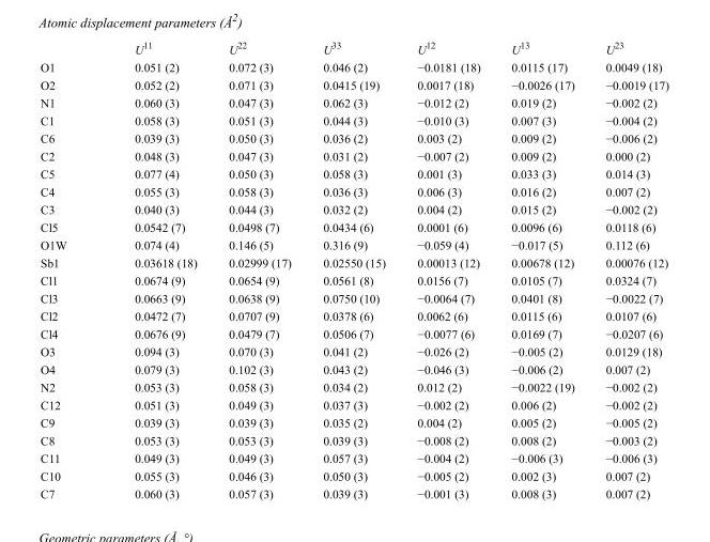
<table><thead><tr><td></td><td>U<sup>11</sup></td><td>U<sup>22</sup></td><td>U<sup>33</sup></td><td>U<sup>12</sup></td><td>U<sup>13</sup></td><td>U<sup>23</sup></td></tr></thead><tbody><tr><td>O1</td><td>0.051 (2)</td><td>0.072 (3)</td><td>0.046 (2)</td><td>−0.0181 (18)</td><td>0.0115 (17)</td><td>0.0049 (18)</td></tr><tr><td>O2</td><td>0.052 (2)</td><td>0.071 (3)</td><td>0.0415 (19)</td><td>0.0017 (18)</td><td>−0.0026 (17)</td><td>−0.0019 (17)</td></tr><tr><td>N1</td><td>0.060 (3)</td><td>0.047 (3)</td><td>0.062 (3)</td><td>−0.012 (2)</td><td>0.019 (2)</td><td>−0.002 (2)</td></tr><tr><td>C1</td><td>0.058 (3)</td><td>0.051 (3)</td><td>0.044 (3)</td><td>−0.010 (3)</td><td>0.007 (3)</td><td>−0.004 (2)</td></tr><tr><td>C6</td><td>0.039 (3)</td><td>0.050 (3)</td><td>0.036 (2)</td><td>0.003 (2)</td><td>0.009 (2)</td><td>−0.006 (2)</td></tr><tr><td>C2</td><td>0.048 (3)</td><td>0.047 (3)</td><td>0.031 (2)</td><td>−0.007 (2)</td><td>0.009 (2)</td><td>0.000 (2)</td></tr><tr><td>C5</td><td>0.077 (4)</td><td>0.050 (3)</td><td>0.058 (3)</td><td>0.001 (3)</td><td>0.033 (3)</td><td>0.014 (3)</td></tr><tr><td>C4</td><td>0.055 (3)</td><td>0.058 (3)</td><td>0.036 (3)</td><td>0.006 (3)</td><td>0.016 (2)</td><td>0.007 (2)</td></tr><tr><td>C3</td><td>0.040 (3)</td><td>0.044 (3)</td><td>0.032 (2)</td><td>0.004 (2)</td><td>0.015 (2)</td><td>−0.002 (2)</td></tr><tr><td>Cl5</td><td>0.0542 (7)</td><td>0.0498 (7)</td><td>0.0434 (6)</td><td>0.0001 (6)</td><td>0.0096 (6)</td><td>0.0118 (6)</td></tr><tr><td>O1W</td><td>0.074 (4)</td><td>0.146 (5)</td><td>0.316 (9)</td><td>−0.059 (4)</td><td>−0.017 (5)</td><td>0.112 (6)</td></tr><tr><td>Sb1</td><td>0.03618 (18)</td><td>0.02999 (17)</td><td>0.02550 (15)</td><td>0.00013 (12)</td><td>0.00678 (12)</td><td>0.00076 (12)</td></tr><tr><td>Cl1</td><td>0.0674 (9)</td><td>0.0654 (9)</td><td>0.0561 (8)</td><td>0.0156 (7)</td><td>0.0105 (7)</td><td>0.0324 (7)</td></tr><tr><td>Cl3</td><td>0.0663 (9)</td><td>0.0638 (9)</td><td>0.0750 (10)</td><td>−0.0064 (7)</td><td>0.0401 (8)</td><td>−0.0022 (7)</td></tr><tr><td>Cl2</td><td>0.0472 (7)</td><td>0.0707 (9)</td><td>0.0378 (6)</td><td>0.0062 (6)</td><td>0.0115 (6)</td><td>0.0107 (6)</td></tr><tr><td>Cl4</td><td>0.0676 (9)</td><td>0.0479 (7)</td><td>0.0506 (7)</td><td>−0.0077 (6)</td><td>0.0169 (7)</td><td>−0.0207 (6)</td></tr><tr><td>O3</td><td>0.094 (3)</td><td>0.070 (3)</td><td>0.041 (2)</td><td>−0.026 (2)</td><td>−0.005 (2)</td><td>0.0129 (18)</td></tr><tr><td>O4</td><td>0.079 (3)</td><td>0.102 (3)</td><td>0.043 (2)</td><td>−0.046 (3)</td><td>−0.006 (2)</td><td>0.007 (2)</td></tr><tr><td>N2</td><td>0.053 (3)</td><td>0.058 (3)</td><td>0.034 (2)</td><td>0.012 (2)</td><td>−0.0022 (19)</td><td>−0.002 (2)</td></tr><tr><td>C12</td><td>0.051 (3)</td><td>0.049 (3)</td><td>0.037 (3)</td><td>−0.002 (2)</td><td>0.006 (2)</td><td>−0.002 (2)</td></tr><tr><td>C9</td><td>0.039 (3)</td><td>0.039 (3)</td><td>0.035 (2)</td><td>0.004 (2)</td><td>0.005 (2)</td><td>−0.005 (2)</td></tr><tr><td>C8</td><td>0.053 (3)</td><td>0.053 (3)</td><td>0.039 (3)</td><td>−0.008 (2)</td><td>0.008 (2)</td><td>−0.003 (2)</td></tr><tr><td>C11</td><td>0.049 (3)</td><td>0.049 (3)</td><td>0.057 (3)</td><td>−0.004 (2)</td><td>−0.006 (3)</td><td>−0.006 (3)</td></tr><tr><td>C10</td><td>0.055 (3)</td><td>0.046 (3)</td><td>0.050 (3)</td><td>−0.005 (2)</td><td>0.002 (3)</td><td>0.007 (2)</td></tr><tr><td>C7</td><td>0.060 (3)</td><td>0.057 (3)</td><td>0.039 (3)</td><td>−0.001 (3)</td><td>0.008 (3)</td><td>0.007 (2)</td></tr></tbody></table>